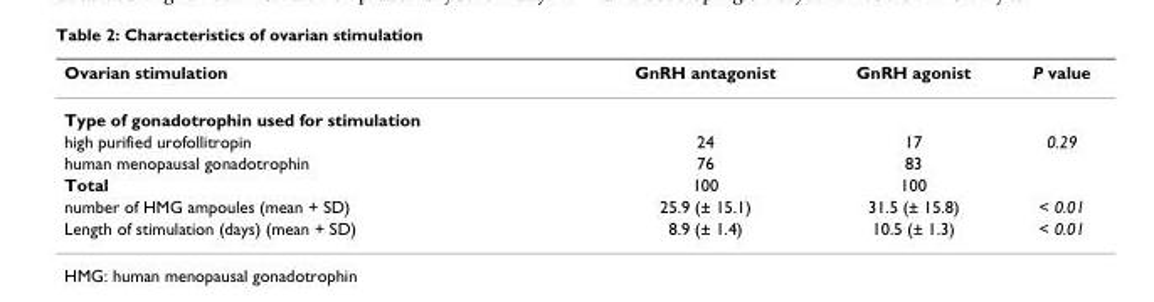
<table><thead><tr><td>Ovarian stimulation</td><td>GnRH antagonist</td><td>GnRH agonist</td><td>P value</td></tr></thead><tbody><tr><td colspan="4">Type of gonadotrophin used for stimulation</td></tr><tr><td>high purified urofollitropin</td><td>24</td><td>17</td><td>0.29</td></tr><tr><td>human menopausal gonadotrophin</td><td>76</td><td>83</td><td></td></tr><tr><td>Total</td><td>100</td><td>100</td><td></td></tr><tr><td>number of HMG ampoules (mean + SD)</td><td>25.9 (± 15.1)</td><td>31.5 (± 15.8)</td><td>&lt; 0.01</td></tr><tr><td>Length of stimulation (days) (mean + SD)</td><td>8.9 (± 1.4)</td><td>10.5 (± 1.3)</td><td>&lt; 0.01</td></tr></tbody></table>